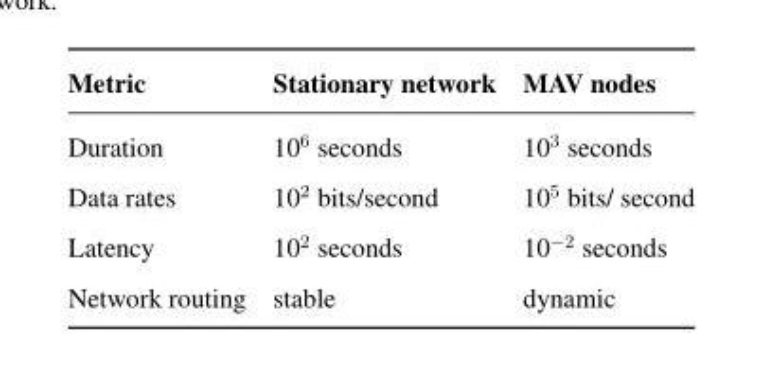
<table><thead><tr><td>Metric</td><td>Stationary network</td><td>MAV nodes</td></tr></thead><tbody><tr><td>Duration</td><td>10<sup>6</sup> seconds</td><td>10<sup>3</sup> seconds</td></tr><tr><td>Data rates</td><td>10<sup>2</sup> bits/second</td><td>10<sup>5</sup> bits/ second</td></tr><tr><td>Latency</td><td>10<sup>2</sup> seconds</td><td>10<sup>−2</sup> seconds</td></tr><tr><td>Network routing</td><td>stable</td><td>dynamic</td></tr></tbody></table>